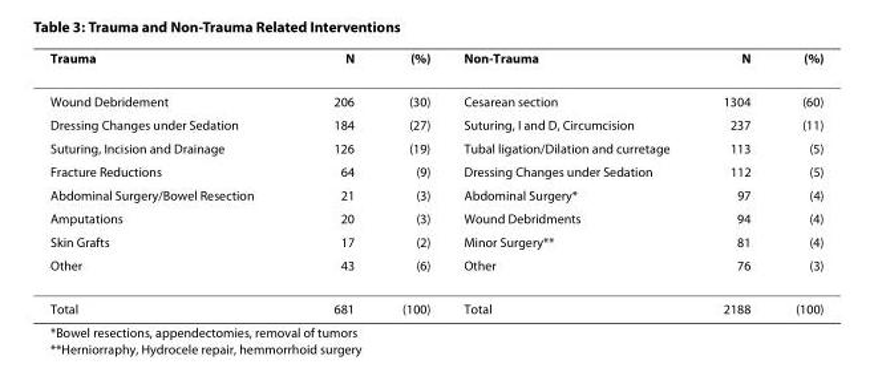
<table><thead><tr><td>Trauma</td><td>N</td><td>(%)</td><td>Non-Trauma</td><td>N</td><td>(%)</td></tr></thead><tbody><tr><td>Wound Debridement</td><td>206</td><td>(30)</td><td>Cesarean section</td><td>1304</td><td>(60)</td></tr><tr><td>Dressing Changes under Sedation</td><td>184</td><td>(27)</td><td>Suturing, I and D, Circumcision</td><td>237</td><td>(11)</td></tr><tr><td>Suturing, Incision and Drainage</td><td>126</td><td>(19)</td><td>Tubal ligation/Dilation and curretage</td><td>113</td><td>(5)</td></tr><tr><td>Fracture Reductions</td><td>64</td><td>(9)</td><td>Dressing Changes under Sedation</td><td>112</td><td>(5)</td></tr><tr><td>Abdominal Surgery/Bowel Resection</td><td>21</td><td>(3)</td><td>Abdominal Surgery*</td><td>97</td><td>(4)</td></tr><tr><td>Amputations</td><td>20</td><td>(3)</td><td>Wound Debridments</td><td>94</td><td>(4)</td></tr><tr><td>Skin Grafts</td><td>17</td><td>(2)</td><td>Minor Surgery**</td><td>81</td><td>(4)</td></tr><tr><td>Other</td><td>43</td><td>(6)</td><td>Other</td><td>76</td><td>(3)</td></tr><tr><td>Total</td><td>681</td><td>(100)</td><td>Total</td><td>2188</td><td>(100)</td></tr></tbody></table>